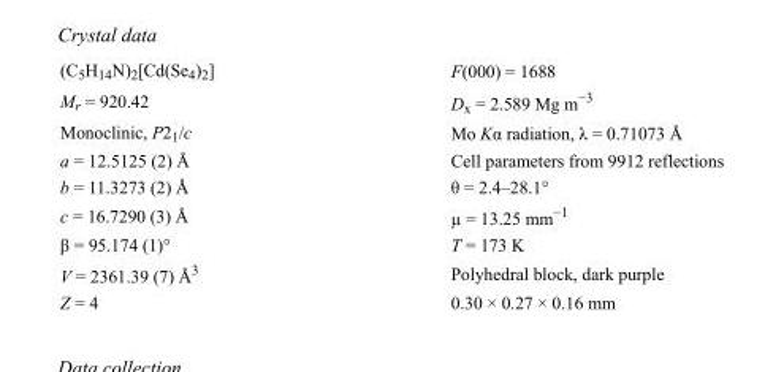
<table><tbody><tr><td>(C<sub>5</sub>H<sub>14</sub>N)<sub>2</sub>[Cd(Se<sub>4</sub>)<sub>2</sub>]</td><td>F(000) = 1688</td></tr><tr><td>M<sub>r</sub> = 920.42</td><td>D<sub>x</sub> = 2.589 Mg m<sup>−3</sup></td></tr><tr><td>Monoclinic, P2<sub>1</sub>/c</td><td>Mo Kα radiation, λ = 0.71073 Å</td></tr><tr><td>a = 12.5125 (2) Å</td><td>Cell parameters from 9912 reflections</td></tr><tr><td>b = 11.3273 (2) Å</td><td>θ = 2.4–28.1°</td></tr><tr><td>c = 16.7290 (3) Å</td><td>µ = 13.25 mm<sup>−1</sup></td></tr><tr><td>β = 95.174 (1)°</td><td>T = 173 K</td></tr><tr><td>V = 2361.39 (7) Å<sup>3</sup></td><td>Polyhedral block, dark purple</td></tr><tr><td>Z = 4</td><td>0.30 × 0.27 × 0.16 mm</td></tr></tbody></table>